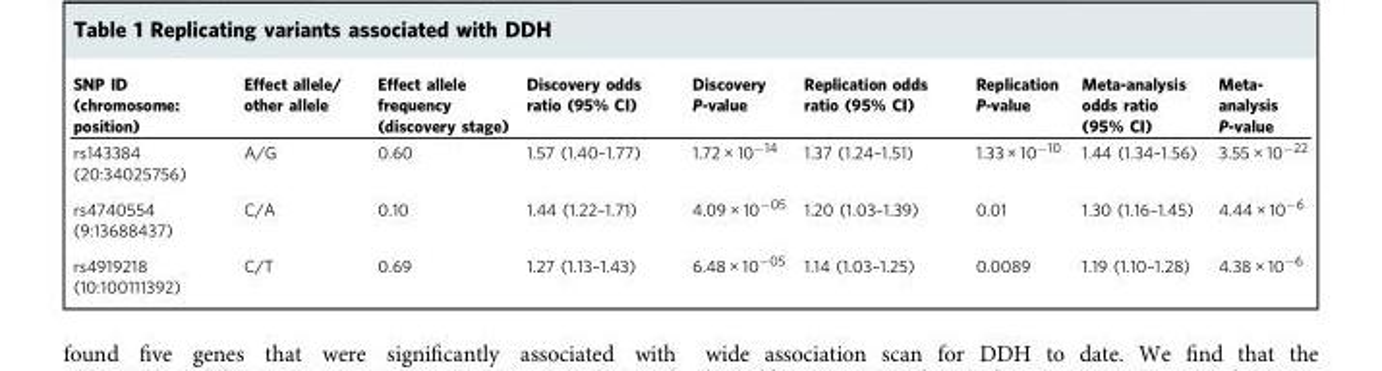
<table><thead><tr><td>SNP ID (chromosome: position)</td><td>Effect allele/ other allele</td><td>Effect allele frequency (discovery stage)</td><td>Discovery odds ratio (95% CI)</td><td>Discovery P-value</td><td>Replication odds ratio (95% CI)</td><td>Replication P-value</td><td>Meta-analysis odds ratio (95% CI)</td><td>Meta- analysis P-value</td></tr></thead><tbody><tr><td>rs143384 (20:34025756)</td><td>A/G</td><td>0.60</td><td>1.57 (1.40–1.77)</td><td>1.72 × 10<sup>−14</sup></td><td>1.37 (1.24–1.51)</td><td>1.33 × 10<sup>−10</sup></td><td>1.44 (1.34–1.56)</td><td>3.55 × 10<sup>−22</sup></td></tr><tr><td>rs4740554 (9:13688437)</td><td>C/A</td><td>0.10</td><td>1.44 (1.22–1.71)</td><td>4.09 × 10<sup>−05</sup></td><td>1.20 (1.03–1.39)</td><td>0.01</td><td>1.30 (1.16–1.45)</td><td>4.44 × 10<sup>−6</sup></td></tr><tr><td>rs4919218 (10:100111392)</td><td>C/T</td><td>0.69</td><td>1.27 (1.13–1.43)</td><td>6.48 × 10<sup>−05</sup></td><td>1.14 (1.03–1.25)</td><td>0.0089</td><td>1.19 (1.10–1.28)</td><td>4.38 × 10<sup>−6</sup></td></tr></tbody></table>